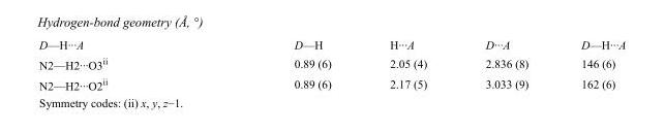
<table><tbody><tr><td>D—H···A</td><td>D—H</td><td>H···A</td><td>D···A</td><td>D—H···A</td></tr><tr><td>N2—H2···O3<sup>ii</sup></td><td>0.89 (6)</td><td>2.05 (4)</td><td>2.836 (8)</td><td>146 (6)</td></tr><tr><td>N2—H2···O2<sup>ii</sup></td><td>0.89 (6)</td><td>2.17 (5)</td><td>3.033 (9)</td><td>162 (6)</td></tr></tbody></table>